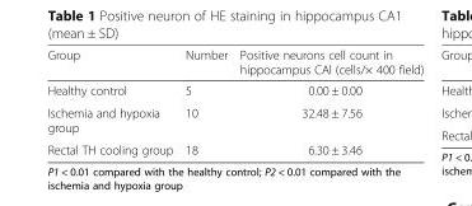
<table><thead><tr><td>Group</td><td>Number</td><td>Positive neurons cell count in hippocampus CAl (cells/× 400 field)</td></tr></thead><tbody><tr><td>Healthy control</td><td>5</td><td>0.00 ± 0.00</td></tr><tr><td>Ischemia and hypoxia group</td><td>10</td><td>32.48 ± 7.56</td></tr><tr><td>Rectal TH cooling group</td><td>18</td><td>6.30 ± 3.46</td></tr></tbody></table>